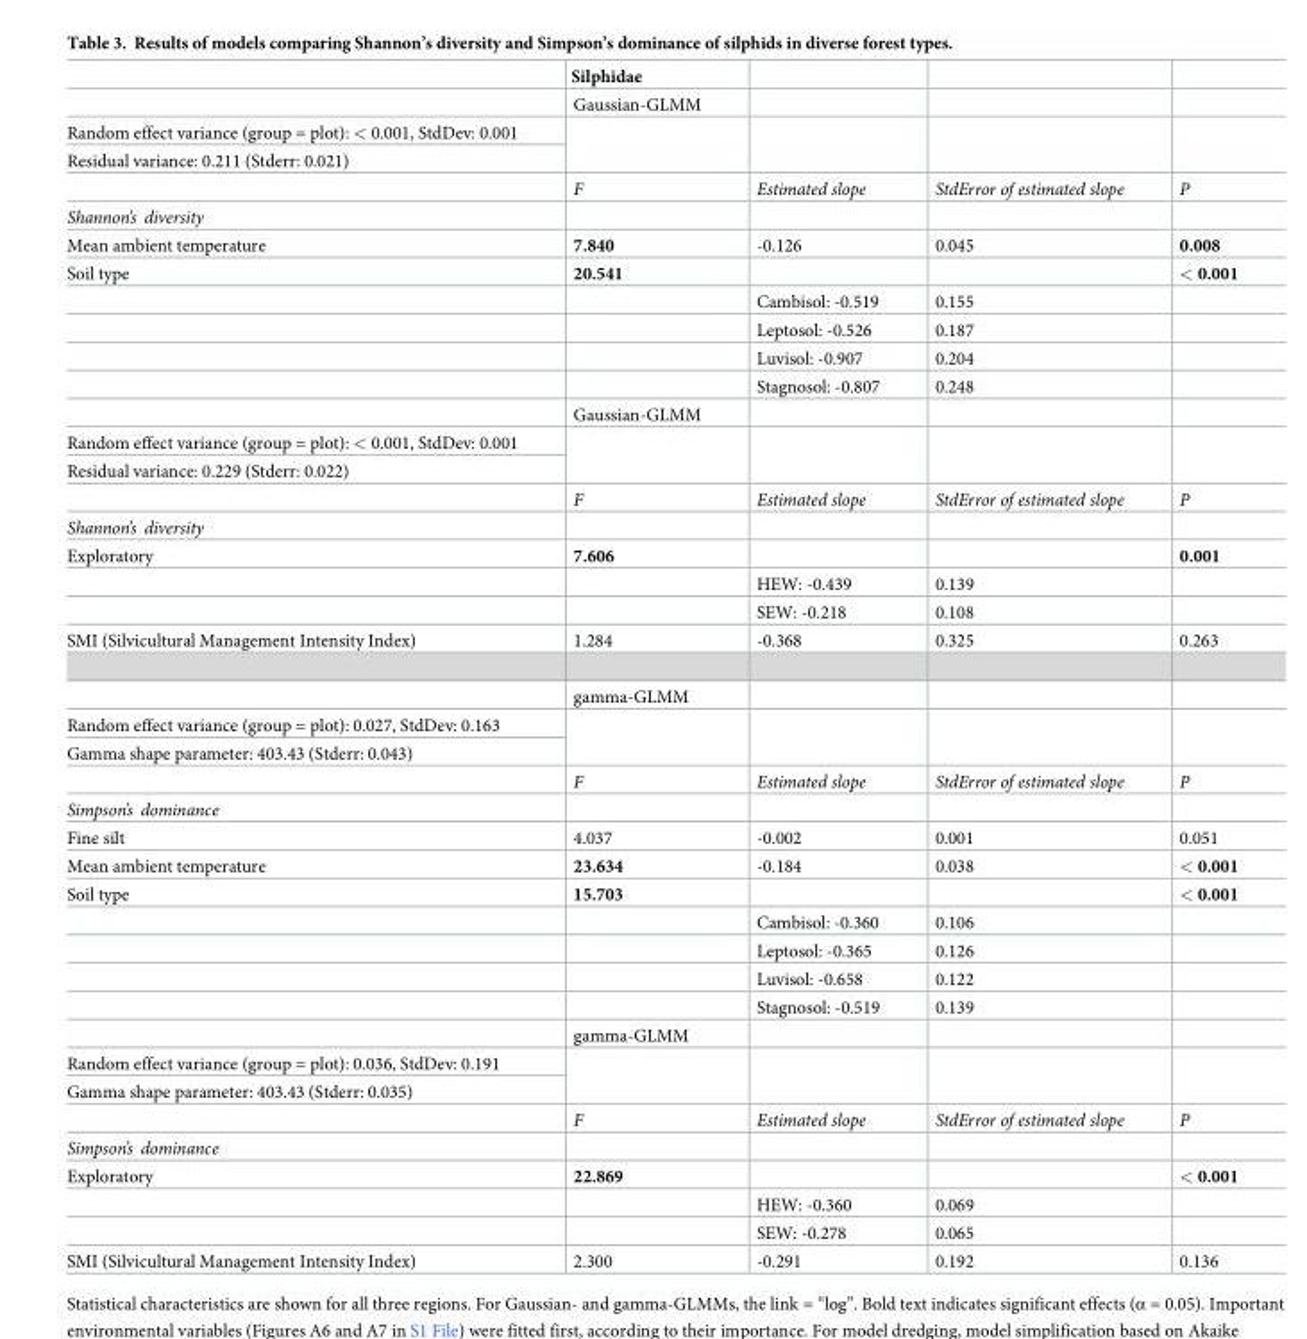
<table><thead><tr><td></td><td>Silphidae</td><td></td><td></td><td></td></tr></thead><tbody><tr><td></td><td>Gaussian-GLMM</td><td></td><td></td><td></td></tr><tr><td>Random effect variance (group = plot): &lt; 0.001, StdDev: 0.001</td><td rowspan="2"></td><td rowspan="2"></td><td rowspan="2"></td><td rowspan="2"></td></tr><tr><td rowspan="2">Residual variance: 0.211 (Stderr: 0.021)</td></tr><tr><td>F</td><td>Estimated slope</td><td>StdError of estimated slope</td><td>P</td></tr><tr><td colspan="5">Shannon’s diversity</td></tr><tr><td>Mean ambient temperature</td><td>7.840</td><td>-0.126</td><td>0.045</td><td>0.008</td></tr><tr><td rowspan="6">Soil type</td><td>20.541</td><td></td><td></td><td>&lt; 0.001</td></tr><tr><td></td><td>Cambisol: -0.519</td><td>0.155</td><td></td></tr><tr><td></td><td>Leptosol: -0.526</td><td>0.187</td><td></td></tr><tr><td></td><td>Luvisol: -0.907</td><td>0.204</td><td></td></tr><tr><td></td><td>Stagnosol: -0.807</td><td>0.248</td><td></td></tr><tr><td>Gaussian-GLMM</td><td></td><td></td><td></td></tr><tr><td>Random effect variance (group = plot): &lt; 0.001, StdDev: 0.001</td><td rowspan="2"></td><td rowspan="2"></td><td rowspan="2"></td><td rowspan="2"></td></tr><tr><td rowspan="2">Residual variance: 0.229 (Stderr: 0.022)</td></tr><tr><td>F</td><td>Estimated slope</td><td>StdError of estimated slope</td><td>P</td></tr><tr><td colspan="5">Shannon’s diversity</td></tr><tr><td rowspan="3">Exploratory</td><td>7.606</td><td></td><td></td><td>0.001</td></tr><tr><td></td><td>HEW: -0.439</td><td>0.139</td><td></td></tr><tr><td></td><td>SEW: -0.218</td><td>0.108</td><td></td></tr><tr><td rowspan="2">SMI (Silvicultural Management Intensity Index)</td><td>1.284</td><td>-0.368</td><td>0.325</td><td>0.263</td></tr><tr><td>gamma-GLMM</td><td></td><td></td><td></td></tr><tr><td>Random effect variance (group = plot): 0.027, StdDev: 0.163</td><td rowspan="2"></td><td rowspan="2"></td><td rowspan="2"></td><td rowspan="2"></td></tr><tr><td rowspan="2">Gamma shape parameter: 403.43 (Stderr: 0.043)</td></tr><tr><td>F</td><td>Estimated slope</td><td>StdError of estimated slope</td><td>P</td></tr><tr><td colspan="5">Simpson’s dominance</td></tr><tr><td>Fine silt</td><td>4.037</td><td>-0.002</td><td>0.001</td><td>0.051</td></tr><tr><td>Mean ambient temperature</td><td>23.634</td><td>-0.184</td><td>0.038</td><td>&lt; 0.001</td></tr><tr><td rowspan="6">Soil type</td><td>15.703</td><td></td><td></td><td>&lt; 0.001</td></tr><tr><td></td><td>Cambisol: -0.360</td><td>0.106</td><td></td></tr><tr><td></td><td>Leptosol: -0.365</td><td>0.126</td><td></td></tr><tr><td></td><td>Luvisol: -0.658</td><td>0.122</td><td></td></tr><tr><td></td><td>Stagnosol: -0.519</td><td>0.139</td><td></td></tr><tr><td>gamma-GLMM</td><td></td><td></td><td></td></tr><tr><td>Random effect variance (group = plot): 0.036, StdDev: 0.191</td><td rowspan="2"></td><td rowspan="2"></td><td rowspan="2"></td><td rowspan="2"></td></tr><tr><td rowspan="2">Gamma shape parameter: 403.43 (Stderr: 0.035)</td></tr><tr><td>F</td><td>Estimated slope</td><td>StdError of estimated slope</td><td>P</td></tr><tr><td colspan="5">Simpson’s dominance</td></tr><tr><td rowspan="3">Exploratory</td><td>22.869</td><td></td><td></td><td>&lt; 0.001</td></tr><tr><td></td><td>HEW: -0.360</td><td>0.069</td><td></td></tr><tr><td></td><td>SEW: -0.278</td><td>0.065</td><td></td></tr><tr><td>SMI (Silvicultural Management Intensity Index)</td><td>2.300</td><td>-0.291</td><td>0.192</td><td>0.136</td></tr></tbody></table>